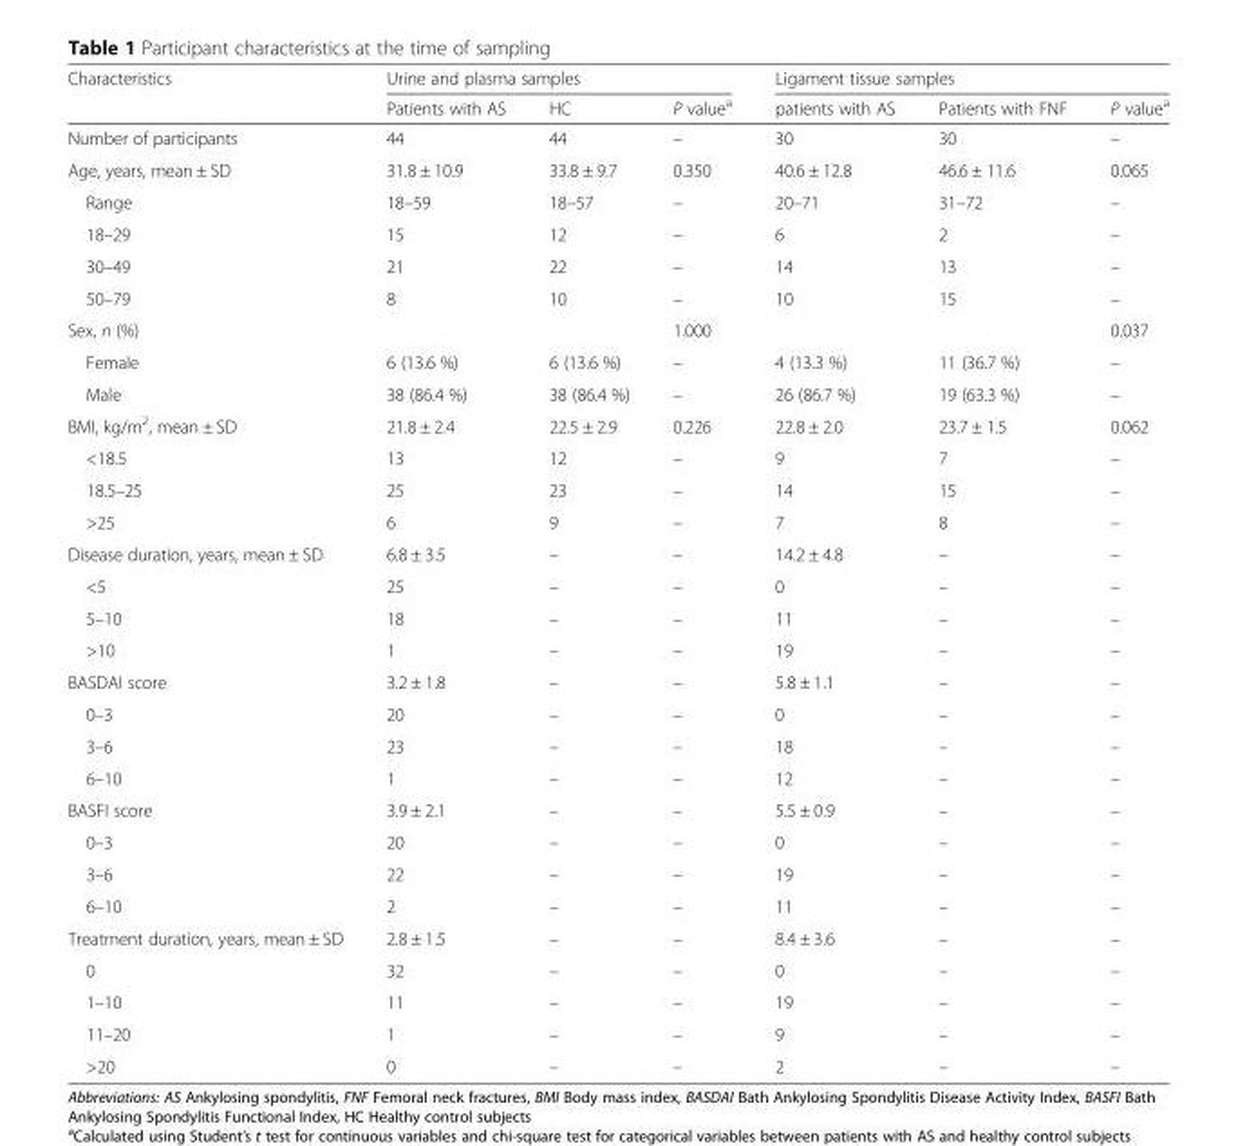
<table><thead><tr><td rowspan="2">Characteristics</td><td colspan="3">Urine and plasma samples</td><td colspan="3">Ligament tissue samples</td></tr><tr><td>Patients with AS</td><td>HC</td><td>P value<sup>a</sup></td><td>patients with AS</td><td>Patients with FNF</td><td>P value<sup>a</sup></td></tr></thead><tbody><tr><td>Number of participants</td><td>44</td><td>44</td><td>–</td><td>30</td><td>30</td><td>–</td></tr><tr><td>Age, years, mean ± SD</td><td>31.8 ± 10.9</td><td>33.8 ± 9.7</td><td>0.350</td><td>40.6 ± 12.8</td><td>46.6 ± 11.6</td><td>0.065</td></tr><tr><td>Range</td><td>18–59</td><td>18–57</td><td>–</td><td>20–71</td><td>31–72</td><td>–</td></tr><tr><td>18–29</td><td>15</td><td>12</td><td>–</td><td>6</td><td>2</td><td>–</td></tr><tr><td>30–49</td><td>21</td><td>22</td><td>–</td><td>14</td><td>13</td><td>–</td></tr><tr><td>50–79</td><td>8</td><td>10</td><td>–</td><td>10</td><td>15</td><td>–</td></tr><tr><td>Sex, n (%)</td><td></td><td></td><td>1.000</td><td></td><td></td><td>0.037</td></tr><tr><td>Female</td><td>6 (13.6 %)</td><td>6 (13.6 %)</td><td>–</td><td>4 (13.3 %)</td><td>11 (36.7 %)</td><td>–</td></tr><tr><td>Male</td><td>38 (86.4 %)</td><td>38 (86.4 %)</td><td>–</td><td>26 (86.7 %)</td><td>19 (63.3 %)</td><td>–</td></tr><tr><td>BMI, kg/m<sup>2</sup>, mean ± SD</td><td>21.8 ± 2.4</td><td>22.5 ± 2.9</td><td>0.226</td><td>22.8 ± 2.0</td><td>23.7 ± 1.5</td><td>0.062</td></tr><tr><td>&lt;18.5</td><td>13</td><td>12</td><td>–</td><td>9</td><td>7</td><td>–</td></tr><tr><td>18.5–25</td><td>25</td><td>23</td><td>–</td><td>14</td><td>15</td><td>–</td></tr><tr><td>&gt;25</td><td>6</td><td>9</td><td>–</td><td>7</td><td>8</td><td>–</td></tr><tr><td>Disease duration, years, mean ± SD</td><td>6.8 ± 3.5</td><td>–</td><td>–</td><td>14.2 ± 4.8</td><td>–</td><td>–</td></tr><tr><td>&lt;5</td><td>25</td><td>–</td><td>–</td><td>0</td><td>–</td><td>–</td></tr><tr><td>5–10</td><td>18</td><td>–</td><td>–</td><td>11</td><td>–</td><td>–</td></tr><tr><td>&gt;10</td><td>1</td><td>–</td><td>–</td><td>19</td><td>–</td><td>–</td></tr><tr><td>BASDAI score</td><td>3.2 ± 1.8</td><td>–</td><td>–</td><td>5.8 ± 1.1</td><td>–</td><td>–</td></tr><tr><td>0–3</td><td>20</td><td>–</td><td>–</td><td>0</td><td>–</td><td>–</td></tr><tr><td>3–6</td><td>23</td><td>–</td><td>–</td><td>18</td><td>–</td><td>–</td></tr><tr><td>6–10</td><td>1</td><td>–</td><td>–</td><td>12</td><td>–</td><td>–</td></tr><tr><td>BASFI score</td><td>3.9 ± 2.1</td><td>–</td><td>–</td><td>5.5 ± 0.9</td><td>–</td><td>–</td></tr><tr><td>0–3</td><td>20</td><td>–</td><td>–</td><td>0</td><td>–</td><td>–</td></tr><tr><td>3–6</td><td>22</td><td>–</td><td>–</td><td>19</td><td>–</td><td>–</td></tr><tr><td>6–10</td><td>2</td><td>–</td><td>–</td><td>11</td><td>–</td><td>–</td></tr><tr><td>Treatment duration, years, mean ± SD</td><td>2.8 ± 1.5</td><td>–</td><td>–</td><td>8.4 ± 3.6</td><td>–</td><td>–</td></tr><tr><td>0</td><td>32</td><td>–</td><td>–</td><td>0</td><td>–</td><td>–</td></tr><tr><td>1–10</td><td>11</td><td>–</td><td>–</td><td>19</td><td>–</td><td>–</td></tr><tr><td>11–20</td><td>1</td><td>–</td><td>–</td><td>9</td><td>–</td><td>–</td></tr><tr><td>&gt;20</td><td>0</td><td>–</td><td>–</td><td>2</td><td>–</td><td>–</td></tr></tbody></table>